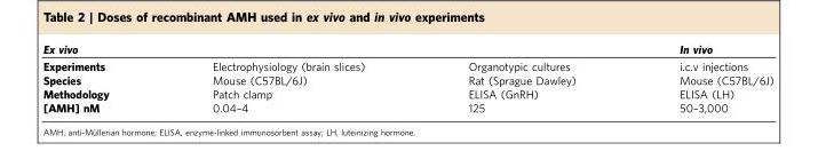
<table><thead><tr><td>Ex vivo</td><td></td><td></td><td>In vivo</td></tr></thead><tbody><tr><td>Experiments</td><td>Electrophysiology (brain slices)</td><td>Organotypic cultures</td><td>i.c.v injections</td></tr><tr><td>Species</td><td>Mouse (C57BL/6J)</td><td>Rat (Sprague Dawley)</td><td>Mouse (C57BL/6J)</td></tr><tr><td>Methodology</td><td>Patch clamp</td><td>ELISA (GnRH)</td><td>ELISA (LH)</td></tr><tr><td>[AMH] nM</td><td>0.04–4</td><td>125</td><td>50–3,000</td></tr></tbody></table>